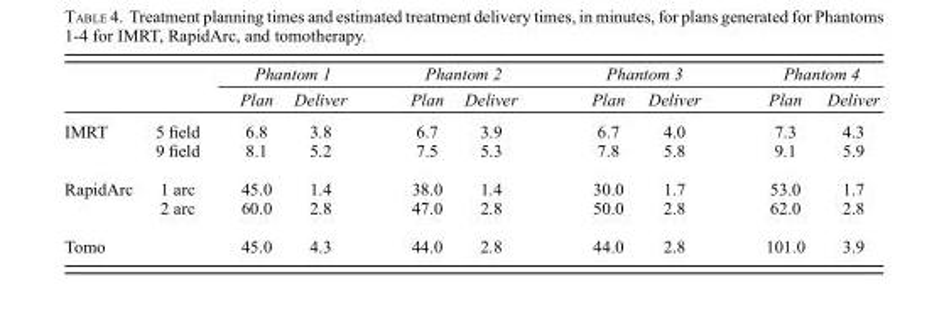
<table><thead><tr><td rowspan="2"></td><td rowspan="2"></td><td colspan="2">Phantom 1</td><td colspan="2">Phantom 2</td><td colspan="2">Phantom 3</td><td colspan="2">Phantom 4</td></tr><tr><td>Plan</td><td>Deliver</td><td>Plan</td><td>Deliver</td><td>Plan</td><td>Deliver</td><td>Plan</td><td>Deliver</td></tr></thead><tbody><tr><td rowspan="2">IMRT</td><td>5 field</td><td>6.8</td><td>3.8</td><td>6.7</td><td>3.9</td><td>6.7</td><td>4.0</td><td>7.3</td><td>4.3</td></tr><tr><td>9 field</td><td>8.1</td><td>5.2</td><td>7.5</td><td>5.3</td><td>7.8</td><td>5.8</td><td>9.1</td><td>5.9</td></tr><tr><td rowspan="2">RapidArc</td><td>1 arc</td><td>45.0</td><td>1.4</td><td>38.0</td><td>1.4</td><td>30.0</td><td>1.7</td><td>53.0</td><td>1.7</td></tr><tr><td>2 arc</td><td>60.0</td><td>2.8</td><td>47.0</td><td>2.8</td><td>50.0</td><td>2.8</td><td>62.0</td><td>2.8</td></tr><tr><td>Tomo</td><td></td><td>45.0</td><td>4.3</td><td>44.0</td><td>2.8</td><td>44.0</td><td>2.8</td><td>101.0</td><td>3.9</td></tr></tbody></table>